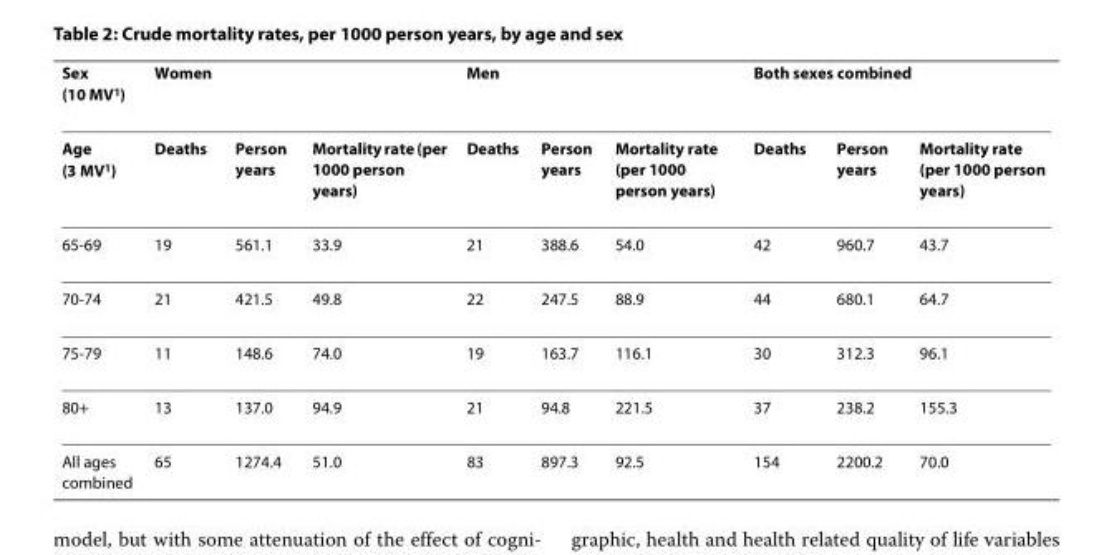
<table><thead><tr><td rowspan="2">Sex (10 MV<sup>1</sup>) Age (3 MV<sup>1</sup>)</td><td colspan="3">Women</td><td colspan="3">Men</td><td colspan="3">Both sexes combined</td></tr><tr><td>Deaths</td><td>Person years</td><td>Mortality rate (per 1000 person years)</td><td>Deaths</td><td>Person years</td><td>Mortality rate (per 1000 person years)</td><td>Deaths</td><td>Person years</td><td>Mortality rate (per 1000 person years)</td></tr></thead><tbody><tr><td>65-69</td><td>19</td><td>561.1</td><td>33.9</td><td>21</td><td>388.6</td><td>54.0</td><td>42</td><td>960.7</td><td>43.7</td></tr><tr><td>70-74</td><td>21</td><td>421.5</td><td>49.8</td><td>22</td><td>247.5</td><td>88.9</td><td>44</td><td>680.1</td><td>64.7</td></tr><tr><td>75-79</td><td>11</td><td>148.6</td><td>74.0</td><td>19</td><td>163.7</td><td>116.1</td><td>30</td><td>312.3</td><td>96.1</td></tr><tr><td>80+</td><td>13</td><td>137.0</td><td>94.9</td><td>21</td><td>94.8</td><td>221.5</td><td>37</td><td>238.2</td><td>155.3</td></tr><tr><td>All ages combined</td><td>65</td><td>1274.4</td><td>51.0</td><td>83</td><td>897.3</td><td>92.5</td><td>154</td><td>2200.2</td><td>70.0</td></tr></tbody></table>